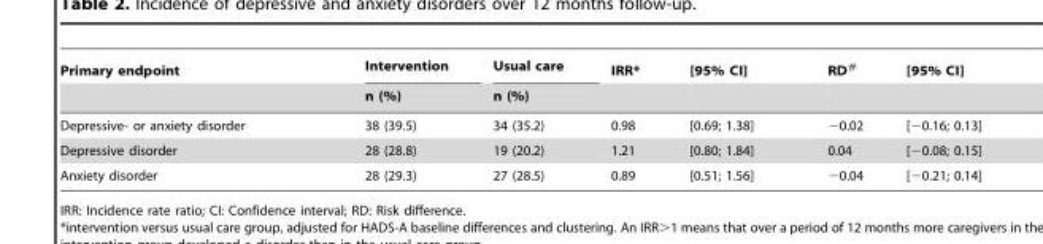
<table><thead><tr><td rowspan="2">Primary endpoint</td><td rowspan="2">Intervention n (%)</td><td rowspan="2">Usual care n (%)</td><td rowspan="2">IRR*</td><td rowspan="2">[95% CI]</td><td rowspan="2">RD#</td><td rowspan="2">[95% CI]</td></tr><tr></tr></thead><tbody><tr><td>Depressive- or anxiety disorder</td><td>38 (39.5)</td><td>34 (35.2)</td><td>0.98</td><td>[0.69; 1.38]</td><td>−0.02</td><td>[−0.16; 0.13]</td></tr><tr><td>Depressive disorder</td><td>28 (28.8)</td><td>19 (20.2)</td><td>1.21</td><td>[0.80; 1.84]</td><td>0.04</td><td>[−0.08; 0.15]</td></tr><tr><td>Anxiety disorder</td><td>28 (29.3)</td><td>27 (28.5)</td><td>0.89</td><td>[0.51; 1.56]</td><td>−0.04</td><td>[−0.21; 0.14]</td></tr></tbody></table>